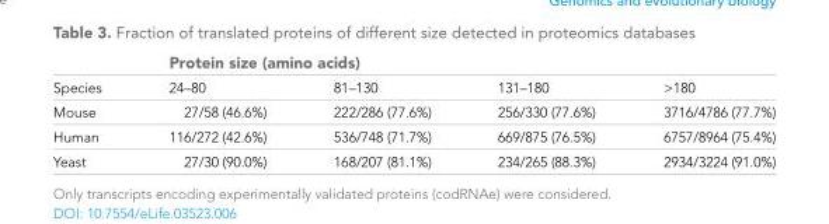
<table><thead><tr><td rowspan="2">Species</td><td colspan="4">Protein size (amino acids)</td></tr><tr><td>24–80</td><td>81–130</td><td>131–180</td><td>&gt;180</td></tr></thead><tbody><tr><td>Mouse</td><td>27/58 (46.6%)</td><td>222/286 (77.6%)</td><td>256/330 (77.6%)</td><td>3716/4786 (77.7%)</td></tr><tr><td>Human</td><td>116/272 (42.6%)</td><td>536/748 (71.7%)</td><td>669/875 (76.5%)</td><td>6757/8964 (75.4%)</td></tr><tr><td>Yeast</td><td>27/30 (90.0%)</td><td>168/207 (81.1%)</td><td>234/265 (88.3%)</td><td>2934/3224 (91.0%)</td></tr></tbody></table>